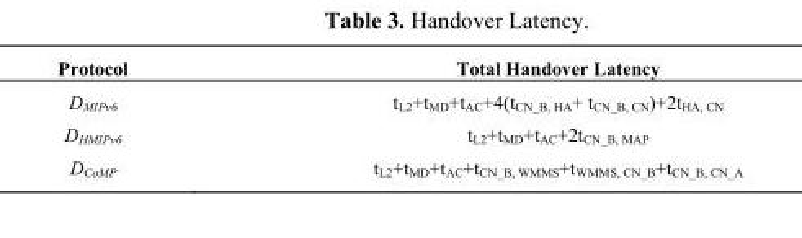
<table><thead><tr><td>Protocol</td><td>Total Handover Latency</td></tr></thead><tbody><tr><td>D<sub>MIPv6</sub></td><td>t<sub>L2</sub>+t<sub>MD</sub>+t<sub>AC</sub>+4(t<sub>CN_B, HA</sub>+ t<sub>CN_B, CN</sub>)+2t<sub>HA, CN</sub></td></tr><tr><td>D<sub>HMIPv6</sub></td><td>t<sub>L2</sub>+t<sub>MD</sub>+t<sub>AC</sub>+2t<sub>CN_B, MAP</sub></td></tr><tr><td>D<sub>CoMP</sub></td><td>t<sub>L2</sub>+t<sub>MD</sub>+t<sub>AC</sub>+t<sub>CN_B, WMMS</sub>+t<sub>WMMS, CN_B</sub>+t<sub>CN_B, CN_A</sub></td></tr></tbody></table>